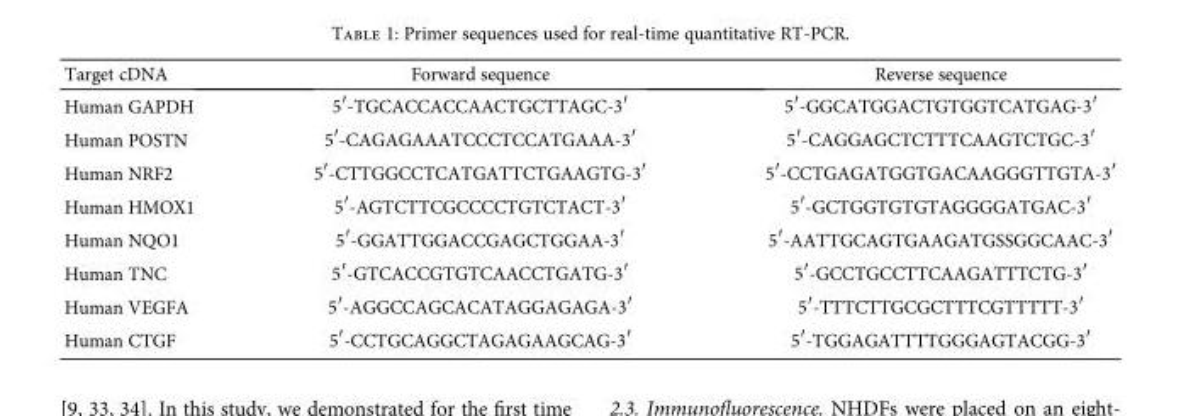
<table><thead><tr><td>Target cDNA</td><td>Forward sequence</td><td>Reverse sequence</td></tr></thead><tbody><tr><td>Human GAPDH</td><td>5′-TGCACCACCAACTGCTTAGC-3′</td><td>5′-GGCATGGACTGTGGTCATGAG-3′</td></tr><tr><td>Human POSTN</td><td>5′-CAGAGAAATCCCTCCATGAAA-3′</td><td>5′-CAGGAGCTCTTTCAAGTCTGC-3′</td></tr><tr><td>Human NRF2</td><td>5′-CTTGGCCTCATGATTCTGAAGTG-3′</td><td>5′-CCTGAGATGGTGACAAGGGTTGTA-3′</td></tr><tr><td>Human HMOX1</td><td>5′-AGTCTTCGCCCCTGTCTACT-3′</td><td>5′-GCTGGTGTGTAGGGGATGAC-3′</td></tr><tr><td>Human NQO1</td><td>5′-GGATTGGACCGAGCTGGAA-3′</td><td>5′-AATTGCAGTGAAGATGSSGGCAAC-3′</td></tr><tr><td>Human TNC</td><td>5′-GTCACCGTGTCAACCTGATG-3′</td><td>5′-GCCTGCCTTCAAGATTTCTG-3′</td></tr><tr><td>Human VEGFA</td><td>5′-AGGCCAGCACATAGGAGAGA-3′</td><td>5′-TTTCTTGCGCTTTCGTTTTT-3′</td></tr><tr><td>Human CTGF</td><td>5′-CCTGCAGGCTAGAGAAGCAG-3′</td><td>5′-TGGAGATTTTGGGAGTACGG-3′</td></tr></tbody></table>